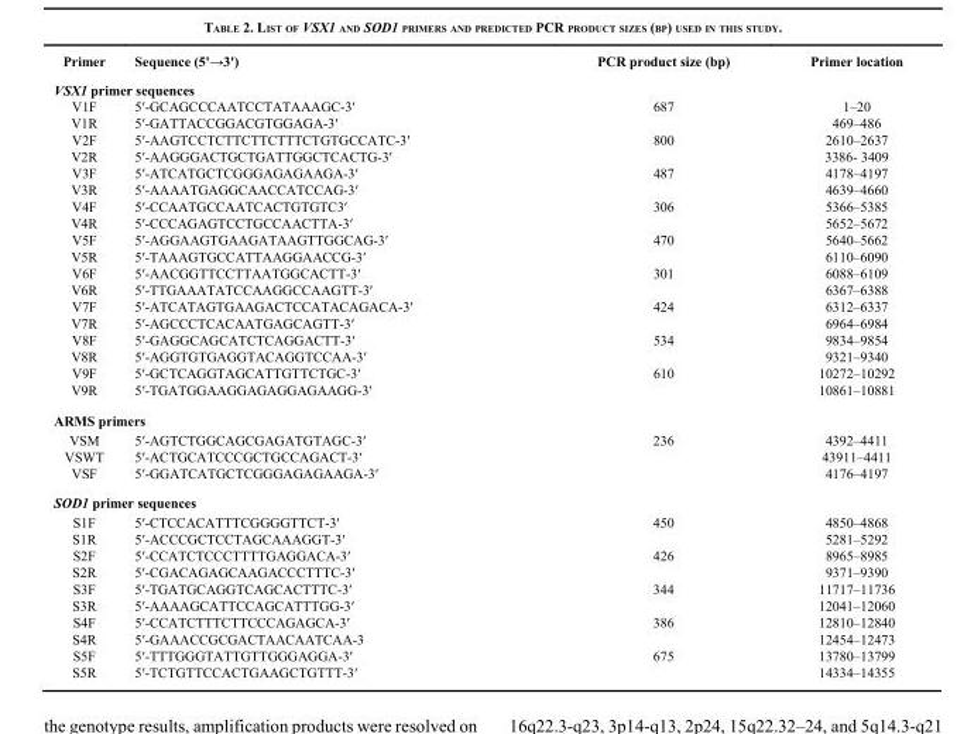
<table><thead><tr><td>Primer</td><td>Sequence (5&#x27;→3&#x27;)</td><td>PCR product size (bp)</td><td>Primer location</td></tr></thead><tbody><tr><td colspan="4">VSX1 primer sequences</td></tr><tr><td>V1F</td><td>5′-GCAGCCCAATCCTATAAAGC-3′</td><td>687</td><td>1–20</td></tr><tr><td>V1R</td><td>5′-GATTACCGGACGTGGAGA-3′</td><td></td><td>469–486</td></tr><tr><td>V2F</td><td>5′-AAGTCCTCTTCTTCTTTCTGTGCCATC-3′</td><td>800</td><td>2610–2637</td></tr><tr><td>V2R</td><td>5′-AAGGGACTGCTGATTGGCTCACTG-3′</td><td></td><td>3386- 3409</td></tr><tr><td>V3F</td><td>5′-ATCATGCTCGGGAGAGAAGA-3′</td><td>487</td><td>4178–4197</td></tr><tr><td>V3R</td><td>5′-AAAATGAGGCAACCATCCAG-3′</td><td></td><td>4639–4660</td></tr><tr><td>V4F</td><td>5′-CCAATGCCAATCACTGTGTC3′</td><td>306</td><td>5366–5385</td></tr><tr><td>V4R</td><td>5′-CCCAGAGTCCTGCCAACTTA-3′</td><td></td><td>5652–5672</td></tr><tr><td>V5F</td><td>5′-AGGAAGTGAAGATAAGTTGGCAG-3′</td><td>470</td><td>5640–5662</td></tr><tr><td>V5R</td><td>5′-TAAAGTGCCATTAAGGAACCG-3′</td><td></td><td>6110–6090</td></tr><tr><td>V6F</td><td>5′-AACGGTTCCTTAATGGCACTT-3′</td><td>301</td><td>6088–6109</td></tr><tr><td>V6R</td><td>5′-TTGAAATATCCAAGGCCAAGTT-3′</td><td></td><td>6367–6388</td></tr><tr><td>V7F</td><td>5′-ATCATAGTGAAGACTCCATACAGACA-3′</td><td>424</td><td>6312–6337</td></tr><tr><td>V7R</td><td>5′-AGCCCTCACAATGAGCAGTT-3′</td><td></td><td>6964–6984</td></tr><tr><td>V8F</td><td>5′-GAGGCAGCATCTCAGGACTT-3′</td><td>534</td><td>9834–9854</td></tr><tr><td>V8R</td><td>5′-AGGTGTGAGGTACAGGTCCAA-3′</td><td></td><td>9321–9340</td></tr><tr><td>V9F</td><td>5′-GCTCAGGTAGCATTGTTCTGC-3′</td><td>610</td><td>10272–10292</td></tr><tr><td>V9R</td><td>5′-TGATGGAAGGAGAGGAGAAGG-3′</td><td></td><td>10861–10881</td></tr><tr><td colspan="4">ARMS primers</td></tr><tr><td>VSM</td><td>5′-AGTCTGGCAGCGAGATGTAGC-3′</td><td>236</td><td>4392–4411</td></tr><tr><td>VSWT</td><td>5′-ACTGCATCCCGCTGCCAGACT-3′</td><td></td><td>43911–4411</td></tr><tr><td>VSF</td><td>5′-GGATCATGCTCGGGAGAGAAGA-3′</td><td></td><td>4176–4197</td></tr><tr><td colspan="4">SOD1 primer sequences</td></tr><tr><td>S1F</td><td>5′-CTCCACATTTCGGGGTTCT-3′</td><td>450</td><td>4850–4868</td></tr><tr><td>S1R</td><td>5′-ACCCGCTCCTAGCAAAGGT-3′</td><td></td><td>5281–5292</td></tr><tr><td>S2F</td><td>5′-CCATCTCCCTTTTGAGGACA-3′</td><td>426</td><td>8965–8985</td></tr><tr><td>S2R</td><td>5′-CGACAGAGCAAGACCCTTTC-3′</td><td></td><td>9371–9390</td></tr><tr><td>S3F</td><td>5′-TGATGCAGGTCAGCACTTTC-3′</td><td>344</td><td>11717–11736</td></tr><tr><td>S3R</td><td>5′-AAAAGCATTCCAGCATTTGG-3′</td><td></td><td>12041–12060</td></tr><tr><td>S4F</td><td>5′-CCATCTTTCTTCCCAGAGCA-3′</td><td>386</td><td>12810–12840</td></tr><tr><td>S4R</td><td>5′-GAAACCGCGACTAACAATCAA-3</td><td></td><td>12454–12473</td></tr><tr><td>S5F</td><td>5′-TTTGGGTATTGTTGGGAGGA-3′</td><td>675</td><td>13780–13799</td></tr><tr><td>S5R</td><td>5′-TCTGTTCCACTGAAGCTGTTT-3′</td><td></td><td>14334–14355</td></tr></tbody></table>